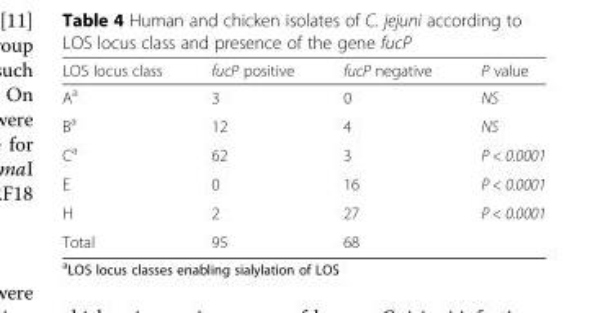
<table><thead><tr><td>LOS locus class</td><td>fucP positive</td><td>fucP negative</td><td>P value</td></tr></thead><tbody><tr><td>A<sup>a</sup></td><td>3</td><td>0</td><td>NS</td></tr><tr><td>B<sup>a</sup></td><td>12</td><td>4</td><td>NS</td></tr><tr><td>C<sup>a</sup></td><td>62</td><td>3</td><td>P &lt; 0.0001</td></tr><tr><td>E</td><td>0</td><td>16</td><td>P &lt; 0.0001</td></tr><tr><td>H</td><td>2</td><td>27</td><td>P &lt; 0.0001</td></tr><tr><td>Total</td><td>95</td><td>68</td><td></td></tr></tbody></table>